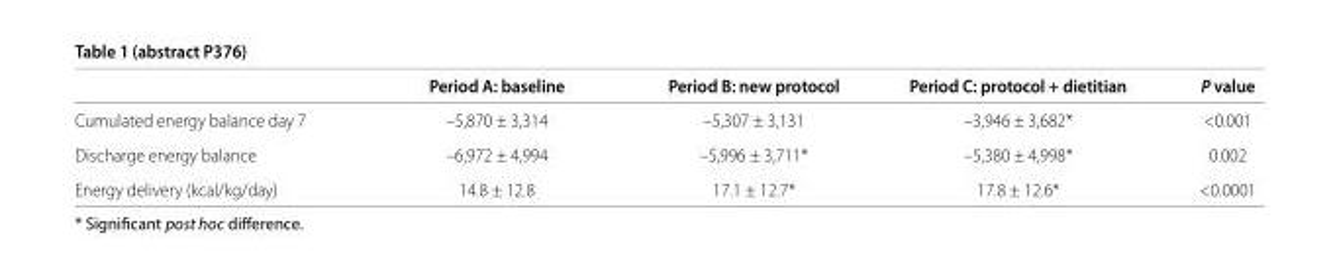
<table><thead><tr><td></td><td>Period A: baseline</td><td>Period B: new protocol</td><td>Period C: protocol + dietitian</td><td>P value</td></tr></thead><tbody><tr><td>Cumulated energy balance day 7</td><td>–5,870 ± 3,314</td><td>–5,307 ± 3,131</td><td>–3,946 ± 3,682*</td><td>&lt;0.001</td></tr><tr><td>Discharge energy balance</td><td>–6,972 ± 4,994</td><td>–5,996 ± 3,711*</td><td>–5,380 ± 4,998*</td><td>0.002</td></tr><tr><td>Energy delivery (kcal/kg/day)</td><td>14.8 ± 12.8</td><td>17.1 ± 12.7*</td><td>17.8 ± 12.6*</td><td>&lt;0.0001</td></tr></tbody></table>